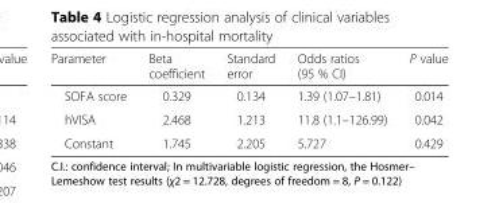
<table><thead><tr><td>Parameter</td><td>Beta coefficient</td><td>Standard error</td><td>Odds ratios (95 % CI)</td><td>P value</td></tr></thead><tbody><tr><td>SOFA score</td><td>0.329</td><td>0.134</td><td>1.39 (1.07–1.81)</td><td>0.014</td></tr><tr><td>hVISA</td><td>2.468</td><td>1.213</td><td>11.8 (1.1–126.99)</td><td>0.042</td></tr><tr><td>Constant</td><td>1.745</td><td>2.205</td><td>5.727</td><td>0.429</td></tr></tbody></table>